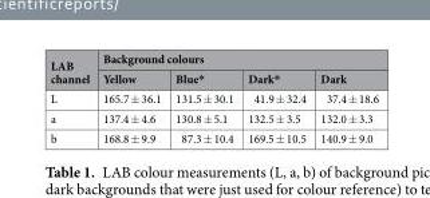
<table><thead><tr><td rowspan="2">LAB channel</td><td colspan="4">Background colours</td></tr><tr><td>Yellow</td><td>Blue*</td><td>Dark*</td><td>Dark</td></tr></thead><tbody><tr><td>L</td><td>165.7 ± 36.1</td><td>131.5 ± 30.1</td><td>41.9 ± 32.4</td><td>37.4 ± 18.6</td></tr><tr><td>a</td><td>137.4 ± 4.6</td><td>130.8 ± 5.1</td><td>132.5 ± 3.5</td><td>132.0 ± 3.3</td></tr><tr><td>b</td><td>168.8 ± 9.9</td><td>87.3 ± 10.4</td><td>169.5 ± 10.5</td><td>140.9 ± 9.0</td></tr></tbody></table>